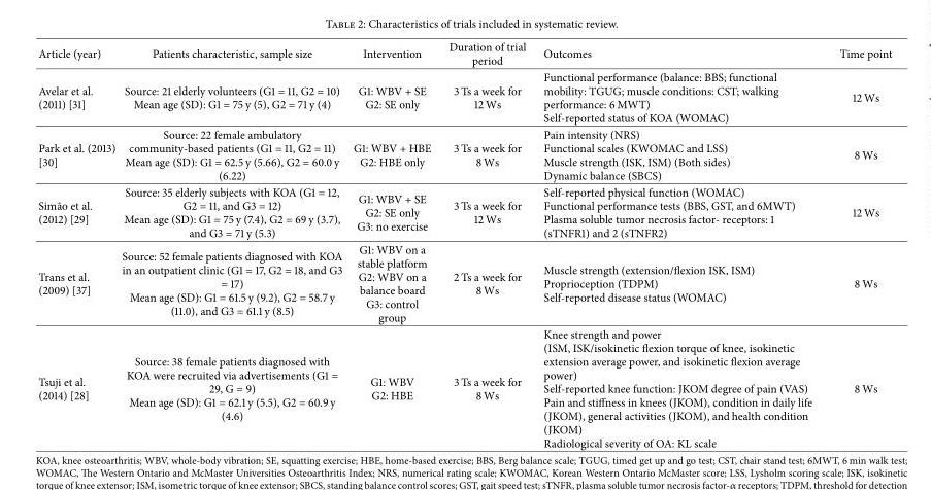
<table><thead><tr><td>Article (year)</td><td>Patients characteristic, sample size</td><td>Intervention</td><td>Duration of trial period</td><td>Outcomes</td><td>Time point</td></tr></thead><tbody><tr><td>Avelar et al. (2011) [31]</td><td>Source: 21 elderly volunteers (G1 = 11, G2 = 10) Mean age (SD): G1 = 75 y (5), G2 = 71 y (4)</td><td>G1: WBV + SE G2: SE only</td><td>3 Ts a week for 12 Ws</td><td>Functional performance (balance: BBS; functional mobility: TGUG; muscle conditions: CST; walking performance: 6 MWT) Self-reported status of KOA (WOMAC)</td><td>12 Ws</td></tr><tr><td>Park et al. (2013) [30]</td><td>Source: 22 female ambulatory community-based patients (G1 = 11, G2 = 11) Mean age (SD): G1 = 62.5 y (5.66), G2 = 60.0 y (6.22)</td><td>G1: WBV + HBE G2: HBE only</td><td>3 Ts a week for 8 Ws</td><td>Pain intensity (NRS) Functional scales (KWOMAC and LSS) Muscle strength (ISK, ISM) (Both sides) Dynamic balance (SBCS)</td><td>8 Ws</td></tr><tr><td>Sim˜ao et al. (2012) [29]</td><td>Source: 35 elderly subjects with KOA (G1 = 12, G2 = 11, and G3 = 12) Mean age (SD): G1 = 75 y (7.4), G2 = 69 y (3.7), and G3 = 71 y (5.3)</td><td>G1: WBV + SE G2: SE only G3: no exercise</td><td>3 Ts a week for 12 Ws</td><td>Self-reported physical function (WOMAC) Functional performance tests (BBS, GST, and 6MWT) Plasma soluble tumor necrosis factor- receptors: 1 (sTNFR1) and 2 (sTNFR2)</td><td>12 Ws</td></tr><tr><td>Trans et al. (2009) [37]</td><td>Source: 52 female patients diagnosed with KOA in an outpatient clinic (G1 = 17, G2 = 18, and G3 = 17) Mean age (SD): G1 = 61.5 y (9.2), G2 = 58.7 y (11.0), and G3 = 61.1 y (8.5)</td><td>G1: WBV on a stable platform G2: WBV on a balance board G3: control group</td><td>2 Ts a week for 8 Ws</td><td>Muscle strength (extension/flexion ISK, ISM) Proprioception (TDPM) Self-reported disease status (WOMAC)</td><td>8 Ws</td></tr><tr><td>Tsuji et al. (2014) [28]</td><td>Source: 38 female patients diagnosed with KOA were recruited via advertisements (G1 = 29, G = 9) Mean age (SD): G1 = 62.1 y (5.5), G2 = 60.9 y (4.6)</td><td>G1: WBV G2: HBE</td><td>3 Ts a week for 8 Ws</td><td>Knee strength and power (ISM, ISK/isokinetic flexion torque of knee, isokinetic extension average power, and isokinetic flexion average power) Self-reported knee function: JKOM degree of pain (VAS) Pain and stiffness in knees (JKOM), condition in daily life (JKOM), general activities (JKOM), and health condition (JKOM) Radiological severity of OA: KL scale</td><td>8 Ws</td></tr></tbody></table>